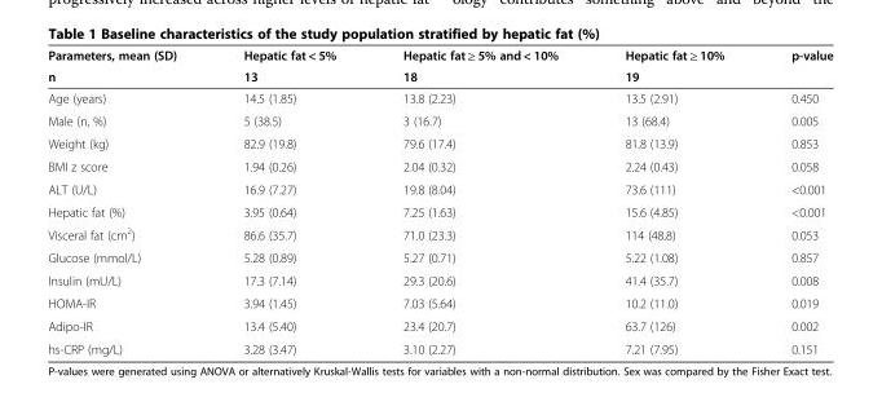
<table><thead><tr><td rowspan="2">Parameters, mean (SD) n</td><td rowspan="2">Hepatic fat &lt; 5% 13</td><td rowspan="2">Hepatic fat ≥ 5% and &lt; 10% 18</td><td rowspan="2">Hepatic fat ≥ 10% 19</td><td rowspan="2">p-value</td></tr><tr></tr></thead><tbody><tr><td>Age (years)</td><td>14.5 (1.85)</td><td>13.8 (2.23)</td><td>13.5 (2.91)</td><td>0.450</td></tr><tr><td>Male (n, %)</td><td>5 (38.5)</td><td>3 (16.7)</td><td>13 (68.4)</td><td>0.005</td></tr><tr><td>Weight (kg)</td><td>82.9 (19.8)</td><td>79.6 (17.4)</td><td>81.8 (13.9)</td><td>0.853</td></tr><tr><td>BMI z score</td><td>1.94 (0.26)</td><td>2.04 (0.32)</td><td>2.24 (0.43)</td><td>0.058</td></tr><tr><td>ALT (U/L)</td><td>16.9 (7.27)</td><td>19.8 (8.04)</td><td>73.6 (111)</td><td>&lt;0.001</td></tr><tr><td>Hepatic fat (%)</td><td>3.95 (0.64)</td><td>7.25 (1.63)</td><td>15.6 (4.85)</td><td>&lt;0.001</td></tr><tr><td>Visceral fat (cm<sup>2</sup>)</td><td>86.6 (35.7)</td><td>71.0 (23.3)</td><td>114 (48.8)</td><td>0.053</td></tr><tr><td>Glucose (mmol/L)</td><td>5.28 (0.89)</td><td>5.27 (0.71)</td><td>5.22 (1.08)</td><td>0.857</td></tr><tr><td>Insulin (mU/L)</td><td>17.3 (7.14)</td><td>29.3 (20.6)</td><td>41.4 (35.7)</td><td>0.008</td></tr><tr><td>HOMA-IR</td><td>3.94 (1.45)</td><td>7.03 (5.64)</td><td>10.2 (11.0)</td><td>0.019</td></tr><tr><td>Adipo-IR</td><td>13.4 (5.40)</td><td>23.4 (20.7)</td><td>63.7 (126)</td><td>0.002</td></tr><tr><td>hs-CRP (mg/L)</td><td>3.28 (3.47)</td><td>3.10 (2.27)</td><td>7.21 (7.95)</td><td>0.151</td></tr></tbody></table>